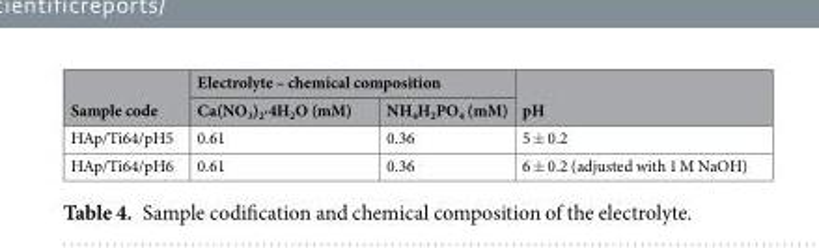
<table><thead><tr><td rowspan="2">Sample code</td><td colspan="2">Electrolyte – chemical composition</td><td rowspan="2">pH</td></tr><tr><td>Ca(NO<sub>3</sub>)<sub>2</sub>·4H<sub>2</sub>O (mM)</td><td>NH<sub>4</sub>H<sub>2</sub>PO<sub>4</sub> (mM)</td></tr></thead><tbody><tr><td>HAp/Ti64/pH5</td><td>0.61</td><td>0.36</td><td>5 ± 0.2</td></tr><tr><td>HAp/Ti64/pH6</td><td>0.61</td><td>0.36</td><td>6 ± 0.2 (adjusted with 1 M NaOH)</td></tr></tbody></table>